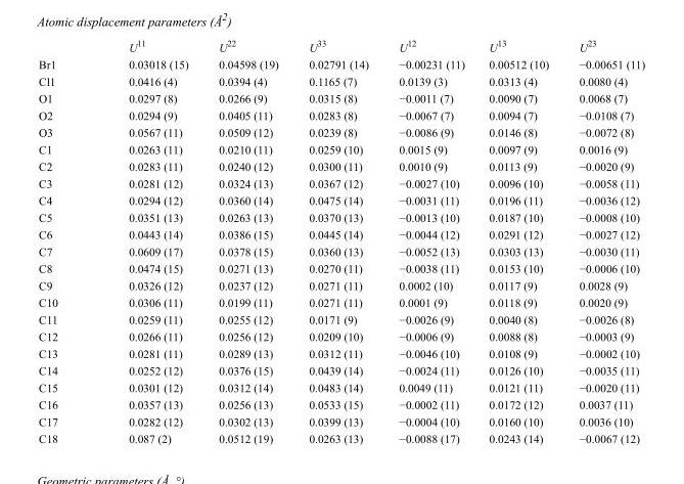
<table><thead><tr><td></td><td>U<sup>11</sup></td><td>U<sup>22</sup></td><td>U<sup>33</sup></td><td>U<sup>12</sup></td><td>U<sup>13</sup></td><td>U<sup>23</sup></td></tr></thead><tbody><tr><td>Br1</td><td>0.03018 (15)</td><td>0.04598 (19)</td><td>0.02791 (14)</td><td>−0.00231 (11)</td><td>0.00512 (10)</td><td>−0.00651 (11)</td></tr><tr><td>Cl1</td><td>0.0416 (4)</td><td>0.0394 (4)</td><td>0.1165 (7)</td><td>0.0139 (3)</td><td>0.0313 (4)</td><td>0.0080 (4)</td></tr><tr><td>O1</td><td>0.0297 (8)</td><td>0.0266 (9)</td><td>0.0315 (8)</td><td>−0.0011 (7)</td><td>0.0090 (7)</td><td>0.0068 (7)</td></tr><tr><td>O2</td><td>0.0294 (9)</td><td>0.0405 (11)</td><td>0.0283 (8)</td><td>−0.0067 (7)</td><td>0.0094 (7)</td><td>−0.0108 (7)</td></tr><tr><td>O3</td><td>0.0567 (11)</td><td>0.0509 (12)</td><td>0.0239 (8)</td><td>−0.0086 (9)</td><td>0.0146 (8)</td><td>−0.0072 (8)</td></tr><tr><td>C1</td><td>0.0263 (11)</td><td>0.0210 (11)</td><td>0.0259 (10)</td><td>0.0015 (9)</td><td>0.0097 (9)</td><td>0.0016 (9)</td></tr><tr><td>C2</td><td>0.0283 (11)</td><td>0.0240 (12)</td><td>0.0300 (11)</td><td>0.0010 (9)</td><td>0.0113 (9)</td><td>−0.0020 (9)</td></tr><tr><td>C3</td><td>0.0281 (12)</td><td>0.0324 (13)</td><td>0.0367 (12)</td><td>−0.0027 (10)</td><td>0.0096 (10)</td><td>−0.0058 (11)</td></tr><tr><td>C4</td><td>0.0294 (12)</td><td>0.0360 (14)</td><td>0.0475 (14)</td><td>−0.0031 (11)</td><td>0.0196 (11)</td><td>−0.0036 (12)</td></tr><tr><td>C5</td><td>0.0351 (13)</td><td>0.0263 (13)</td><td>0.0370 (13)</td><td>−0.0013 (10)</td><td>0.0187 (10)</td><td>−0.0008 (10)</td></tr><tr><td>C6</td><td>0.0443 (14)</td><td>0.0386 (15)</td><td>0.0445 (14)</td><td>−0.0044 (12)</td><td>0.0291 (12)</td><td>−0.0027 (12)</td></tr><tr><td>C7</td><td>0.0609 (17)</td><td>0.0378 (15)</td><td>0.0360 (13)</td><td>−0.0052 (13)</td><td>0.0303 (13)</td><td>−0.0030 (11)</td></tr><tr><td>C8</td><td>0.0474 (15)</td><td>0.0271 (13)</td><td>0.0270 (11)</td><td>−0.0038 (11)</td><td>0.0153 (10)</td><td>−0.0006 (10)</td></tr><tr><td>C9</td><td>0.0326 (12)</td><td>0.0237 (12)</td><td>0.0271 (11)</td><td>0.0002 (10)</td><td>0.0117 (9)</td><td>0.0028 (9)</td></tr><tr><td>C10</td><td>0.0306 (11)</td><td>0.0199 (11)</td><td>0.0271 (11)</td><td>0.0001 (9)</td><td>0.0118 (9)</td><td>0.0020 (9)</td></tr><tr><td>C11</td><td>0.0259 (11)</td><td>0.0255 (12)</td><td>0.0171 (9)</td><td>−0.0026 (9)</td><td>0.0040 (8)</td><td>−0.0026 (8)</td></tr><tr><td>C12</td><td>0.0266 (11)</td><td>0.0256 (12)</td><td>0.0209 (10)</td><td>−0.0006 (9)</td><td>0.0088 (8)</td><td>−0.0003 (9)</td></tr><tr><td>C13</td><td>0.0281 (11)</td><td>0.0289 (13)</td><td>0.0312 (11)</td><td>−0.0046 (10)</td><td>0.0108 (9)</td><td>−0.0002 (10)</td></tr><tr><td>C14</td><td>0.0252 (12)</td><td>0.0376 (15)</td><td>0.0439 (14)</td><td>−0.0024 (11)</td><td>0.0126 (10)</td><td>−0.0035 (11)</td></tr><tr><td>C15</td><td>0.0301 (12)</td><td>0.0312 (14)</td><td>0.0483 (14)</td><td>0.0049 (11)</td><td>0.0121 (11)</td><td>−0.0020 (11)</td></tr><tr><td>C16</td><td>0.0357 (13)</td><td>0.0256 (13)</td><td>0.0533 (15)</td><td>−0.0002 (11)</td><td>0.0172 (12)</td><td>0.0037 (11)</td></tr><tr><td>C17</td><td>0.0282 (12)</td><td>0.0302 (13)</td><td>0.0399 (13)</td><td>−0.0004 (10)</td><td>0.0160 (10)</td><td>0.0036 (10)</td></tr><tr><td>C18</td><td>0.087 (2)</td><td>0.0512 (19)</td><td>0.0263 (13)</td><td>−0.0088 (17)</td><td>0.0243 (14)</td><td>−0.0067 (12)</td></tr></tbody></table>